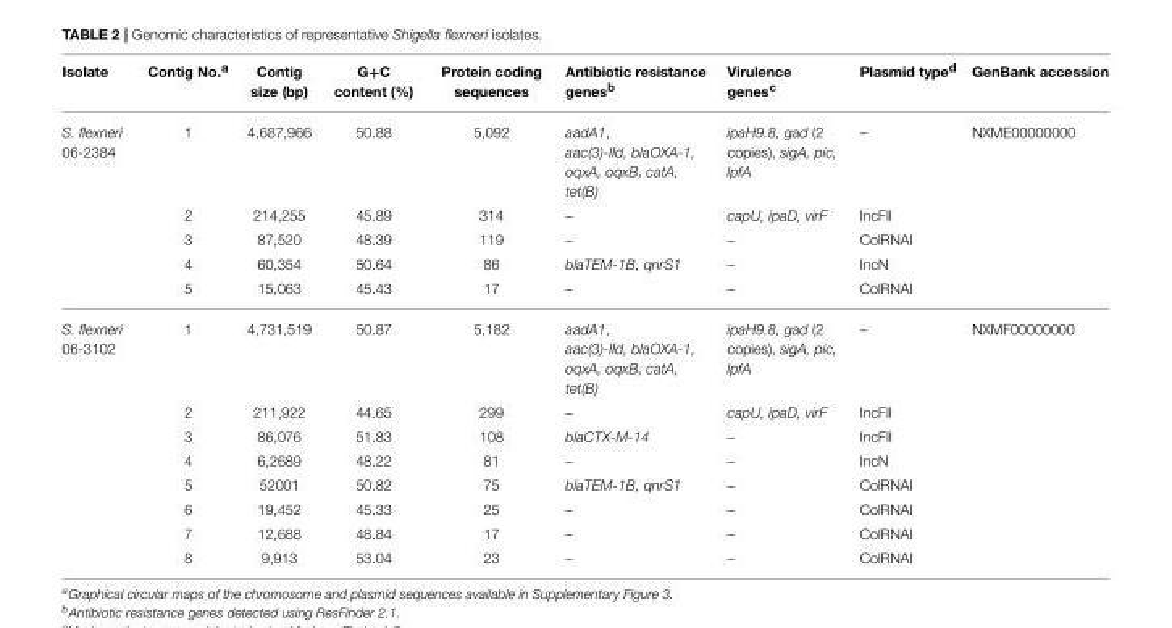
<table><thead><tr><td>Isolate</td><td>Contig No.<sup>a</sup></td><td>Contig size (bp)</td><td>G+C content (%)</td><td>Protein coding sequences</td><td>Antibiotic resistance genes<sup>b</sup></td><td>Virulence genes<sup>c</sup></td><td>Plasmid type<sup>d</sup></td><td>GenBank accession</td></tr></thead><tbody><tr><td rowspan="5">S. flexneri 06-2384</td><td>1</td><td>4,687,966</td><td>50.88</td><td>5,092</td><td>aadA1, aac(3)-IId, blaOXA-1, oqxA, oqxB, catA, tet(B)</td><td>ipaH9.8, gad (2 copies), sigA, pic, lpfA</td><td>–</td><td>NXME00000000</td></tr><tr><td>2</td><td>214,255</td><td>45.89</td><td>314</td><td>–</td><td>capU, ipaD, virF</td><td>IncFII</td><td></td></tr><tr><td>3</td><td>87,520</td><td>48.39</td><td>119</td><td>–</td><td>–</td><td>ColRNAI</td><td></td></tr><tr><td>4</td><td>60,354</td><td>50.64</td><td>86</td><td>blaTEM-1B, qnrS1</td><td>–</td><td>IncN</td><td></td></tr><tr><td>5</td><td>15,063</td><td>45.43</td><td>17</td><td>–</td><td>–</td><td>ColRNAI</td><td></td></tr><tr><td rowspan="8">S. flexneri 06-3102</td><td>1</td><td>4,731,519</td><td>50.87</td><td>5,182</td><td>aadA1, aac(3)-IId, blaOXA-1, oqxA, oqxB, catA, tet(B)</td><td>ipaH9.8, gad (2 copies), sigA, pic, lpfA</td><td>–</td><td>NXMF00000000</td></tr><tr><td>2</td><td>211,922</td><td>44.65</td><td>299</td><td>–</td><td>capU, ipaD, virF</td><td>IncFII</td><td></td></tr><tr><td>3</td><td>86,076</td><td>51.83</td><td>108</td><td>blaCTX-M-14</td><td>–</td><td>IncFII</td><td></td></tr><tr><td>4</td><td>6,2689</td><td>48.22</td><td>81</td><td>–</td><td>–</td><td>IncN</td><td></td></tr><tr><td>5</td><td>52001</td><td>50.82</td><td>75</td><td>blaTEM-1B, qnrS1</td><td>–</td><td>ColRNAI</td><td></td></tr><tr><td>6</td><td>19,452</td><td>45.33</td><td>25</td><td>–</td><td>–</td><td>ColRNAI</td><td></td></tr><tr><td>7</td><td>12,688</td><td>48.84</td><td>17</td><td>–</td><td>–</td><td>ColRNAI</td><td></td></tr><tr><td>8</td><td>9,913</td><td>53.04</td><td>23</td><td>–</td><td>–</td><td>ColRNAI</td><td></td></tr></tbody></table>